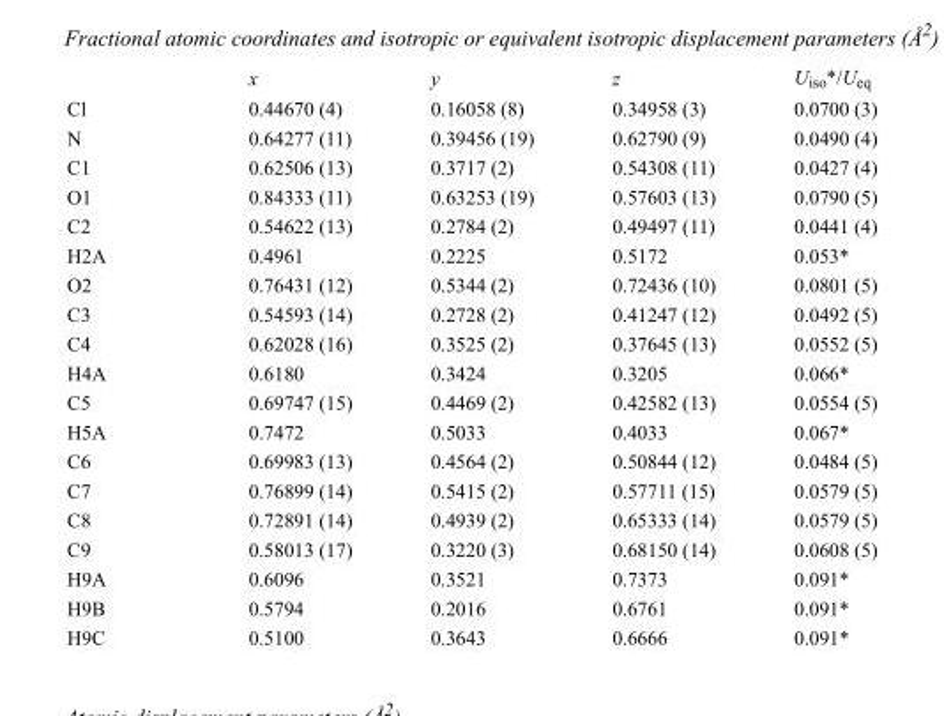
<table><thead><tr><td></td><td>x</td><td>y</td><td>z</td><td>U<sub>iso</sub>*/U<sub>eq</sub></td></tr></thead><tbody><tr><td>Cl</td><td>0.44670 (4)</td><td>0.16058 (8)</td><td>0.34958 (3)</td><td>0.0700 (3)</td></tr><tr><td>N</td><td>0.64277 (11)</td><td>0.39456 (19)</td><td>0.62790 (9)</td><td>0.0490 (4)</td></tr><tr><td>C1</td><td>0.62506 (13)</td><td>0.3717 (2)</td><td>0.54308 (11)</td><td>0.0427 (4)</td></tr><tr><td>O1</td><td>0.84333 (11)</td><td>0.63253 (19)</td><td>0.57603 (13)</td><td>0.0790 (5)</td></tr><tr><td>C2</td><td>0.54622 (13)</td><td>0.2784 (2)</td><td>0.49497 (11)</td><td>0.0441 (4)</td></tr><tr><td>H2A</td><td>0.4961</td><td>0.2225</td><td>0.5172</td><td>0.053*</td></tr><tr><td>O2</td><td>0.76431 (12)</td><td>0.5344 (2)</td><td>0.72436 (10)</td><td>0.0801 (5)</td></tr><tr><td>C3</td><td>0.54593 (14)</td><td>0.2728 (2)</td><td>0.41247 (12)</td><td>0.0492 (5)</td></tr><tr><td>C4</td><td>0.62028 (16)</td><td>0.3525 (2)</td><td>0.37645 (13)</td><td>0.0552 (5)</td></tr><tr><td>H4A</td><td>0.6180</td><td>0.3424</td><td>0.3205</td><td>0.066*</td></tr><tr><td>C5</td><td>0.69747 (15)</td><td>0.4469 (2)</td><td>0.42582 (13)</td><td>0.0554 (5)</td></tr><tr><td>H5A</td><td>0.7472</td><td>0.5033</td><td>0.4033</td><td>0.067*</td></tr><tr><td>C6</td><td>0.69983 (13)</td><td>0.4564 (2)</td><td>0.50844 (12)</td><td>0.0484 (5)</td></tr><tr><td>C7</td><td>0.76899 (14)</td><td>0.5415 (2)</td><td>0.57711 (15)</td><td>0.0579 (5)</td></tr><tr><td>C8</td><td>0.72891 (14)</td><td>0.4939 (2)</td><td>0.65333 (14)</td><td>0.0579 (5)</td></tr><tr><td>C9</td><td>0.58013 (17)</td><td>0.3220 (3)</td><td>0.68150 (14)</td><td>0.0608 (5)</td></tr><tr><td>H9A</td><td>0.6096</td><td>0.3521</td><td>0.7373</td><td>0.091*</td></tr><tr><td>H9B</td><td>0.5794</td><td>0.2016</td><td>0.6761</td><td>0.091*</td></tr><tr><td>H9C</td><td>0.5100</td><td>0.3643</td><td>0.6666</td><td>0.091*</td></tr></tbody></table>